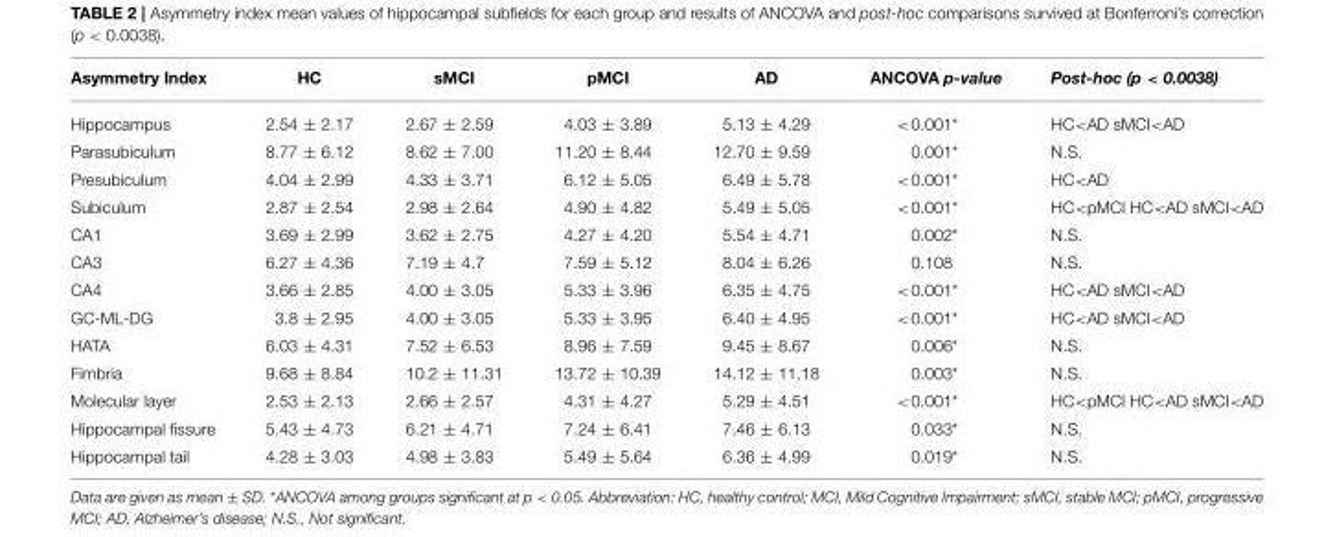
<table><thead><tr><td>Asymmetry Index</td><td>HC</td><td>sMCI</td><td>pMCI</td><td>AD</td><td>ANCOVA p-value</td><td>Post-hoc (p &lt; 0.0038)</td></tr></thead><tbody><tr><td>Hippocampus</td><td>2.54 ± 2.17</td><td>2.67 ± 2.59</td><td>4.03 ± 3.89</td><td>5.13 ± 4.29</td><td>&lt;0.001*</td><td>HC&lt;AD sMCI&lt;AD</td></tr><tr><td>Parasubiculum</td><td>8.77 ± 6.12</td><td>8.62 ± 7.00</td><td>11.20 ± 8.44</td><td>12.70 ± 9.59</td><td>0.001*</td><td>N.S.</td></tr><tr><td>Presubiculum</td><td>4.04 ± 2.99</td><td>4.33 ± 3.71</td><td>6.12 ± 5.05</td><td>6.49 ± 5.78</td><td>&lt;0.001*</td><td>HC&lt;AD</td></tr><tr><td>Subiculum</td><td>2.87 ± 2.54</td><td>2.98 ± 2.64</td><td>4.90 ± 4.82</td><td>5.49 ± 5.05</td><td>&lt;0.001*</td><td>HC&lt;pMCI HC&lt;AD sMCI&lt;AD</td></tr><tr><td>CA1</td><td>3.69 ± 2.99</td><td>3.62 ± 2.75</td><td>4.27 ± 4.20</td><td>5.54 ± 4.71</td><td>0.002*</td><td>N.S.</td></tr><tr><td>CA3</td><td>6.27 ± 4.36</td><td>7.19 ± 4.7</td><td>7.59 ± 5.12</td><td>8.04 ± 6.26</td><td>0.108</td><td>N.S.</td></tr><tr><td>CA4</td><td>3.66 ± 2.85</td><td>4.00 ± 3.05</td><td>5.33 ± 3.96</td><td>6.35 ± 4.75</td><td>&lt;0.001*</td><td>HC&lt;AD sMCI&lt;AD</td></tr><tr><td>GC-ML-DG</td><td>3.8 ± 2.95</td><td>4.00 ± 3.05</td><td>5.33 ± 3.95</td><td>6.40 ± 4.95</td><td>&lt;0.001*</td><td>HC&lt;AD sMCI&lt;AD</td></tr><tr><td>HATA</td><td>6.03 ± 4.31</td><td>7.52 ± 6.53</td><td>8.96 ± 7.59</td><td>9.45 ± 8.67</td><td>0.006*</td><td>N.S.</td></tr><tr><td>Fimbria</td><td>9.68 ± 8.84</td><td>10.2 ± 11.31</td><td>13.72 ± 10.39</td><td>14.12 ± 11.18</td><td>0.003*</td><td>N.S.</td></tr><tr><td>Molecular layer</td><td>2.53 ± 2.13</td><td>2.66 ± 2.57</td><td>4.31 ± 4.27</td><td>5.29 ± 4.51</td><td>&lt;0.001*</td><td>HC&lt;pMCI HC&lt;AD sMCI&lt;AD</td></tr><tr><td>Hippocampal fissure</td><td>5.43 ± 4.73</td><td>6.21 ± 4.71</td><td>7.24 ± 6.41</td><td>7.46 ± 6.13</td><td>0.033*</td><td>N.S.</td></tr><tr><td>Hippocampal tail</td><td>4.28 ± 3.03</td><td>4.98 ± 3.83</td><td>5.49 ± 5.64</td><td>6.36 ± 4.99</td><td>0.019*</td><td>N.S.</td></tr></tbody></table>